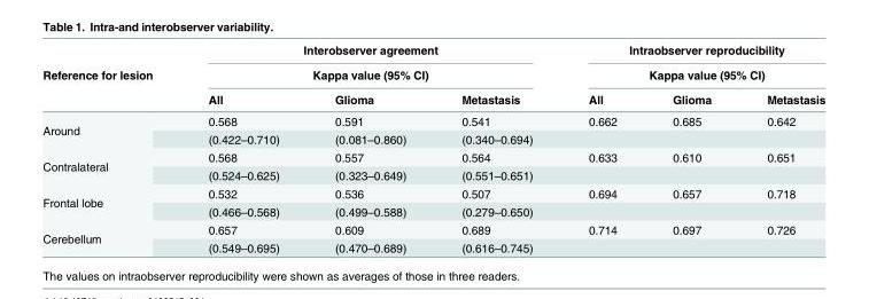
<table><thead><tr><td rowspan="3">Reference for lesion</td><td rowspan="2" colspan="3">Interobserver agreement Kappa value (95% CI)</td><td rowspan="2" colspan="3">Intraobserver reproducibility Kappa value (95% CI)</td></tr><tr></tr><tr><td>All</td><td>Glioma</td><td>Metastasis</td><td>All</td><td>Glioma</td><td>Metastasis</td></tr></thead><tbody><tr><td rowspan="2">Around</td><td>0.568</td><td>0.591</td><td>0.541</td><td>0.662</td><td>0.685</td><td>0.642</td></tr><tr><td>(0.422–0.710)</td><td>(0.081–0.860)</td><td>(0.340–0.694)</td><td></td><td></td><td></td></tr><tr><td rowspan="2">Contralateral</td><td>0.568</td><td>0.557</td><td>0.564</td><td>0.633</td><td>0.610</td><td>0.651</td></tr><tr><td>(0.524–0.625)</td><td>(0.323–0.649)</td><td>(0.551–0.651)</td><td></td><td></td><td></td></tr><tr><td rowspan="2">Frontal lobe</td><td>0.532</td><td>0.536</td><td>0.507</td><td>0.694</td><td>0.657</td><td>0.718</td></tr><tr><td>(0.466–0.568)</td><td>(0.499–0.588)</td><td>(0.279–0.650)</td><td></td><td></td><td></td></tr><tr><td rowspan="2">Cerebellum</td><td>0.657</td><td>0.609</td><td>0.689</td><td>0.714</td><td>0.697</td><td>0.726</td></tr><tr><td>(0.549–0.695)</td><td>(0.470–0.689)</td><td>(0.616–0.745)</td><td></td><td></td><td></td></tr></tbody></table>